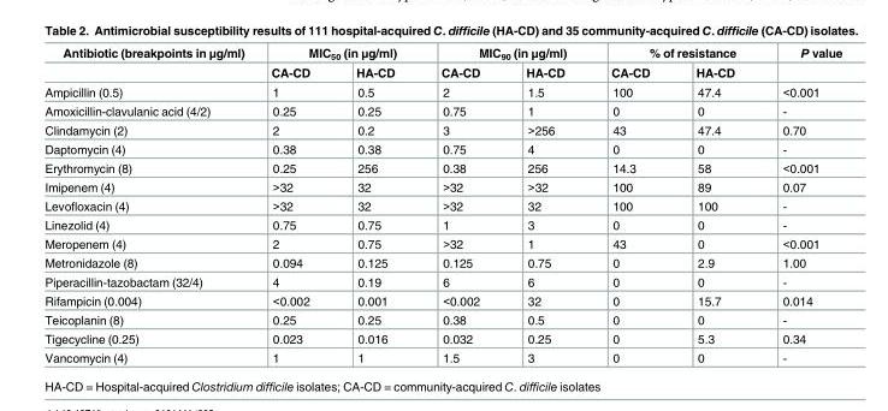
<table><thead><tr><td rowspan="2">Antibiotic (breakpoints in μg/ml)</td><td colspan="2">MIC<sub>50</sub> (in μg/ml)</td><td colspan="2">MIC<sub>90</sub> (in μg/ml)</td><td colspan="2">% of resistance</td><td rowspan="2">P value</td></tr><tr><td>CA-CD</td><td>HA-CD</td><td>CA-CD</td><td>HA-CD</td><td>CA-CD</td><td>HA-CD</td></tr></thead><tbody><tr><td>Ampicillin (0.5)</td><td>1</td><td>0.5</td><td>2</td><td>1.5</td><td>100</td><td>47.4</td><td>&lt;0.001</td></tr><tr><td>Amoxicillin-clavulanic acid (4/2)</td><td>0.25</td><td>0.25</td><td>0.75</td><td>1</td><td>0</td><td>0</td><td>-</td></tr><tr><td>Clindamycin (2)</td><td>2</td><td>0.2</td><td>3</td><td>&gt;256</td><td>43</td><td>47.4</td><td>0.70</td></tr><tr><td>Daptomycin (4)</td><td>0.38</td><td>0.38</td><td>0.75</td><td>4</td><td>0</td><td>0</td><td>-</td></tr><tr><td>Erythromycin (8)</td><td>0.25</td><td>256</td><td>0.38</td><td>256</td><td>14.3</td><td>58</td><td>&lt;0.001</td></tr><tr><td>Imipenem (4)</td><td>&gt;32</td><td>32</td><td>&gt;32</td><td>&gt;32</td><td>100</td><td>89</td><td>0.07</td></tr><tr><td>Levofloxacin (4)</td><td>&gt;32</td><td>32</td><td>&gt;32</td><td>32</td><td>100</td><td>100</td><td>-</td></tr><tr><td>Linezolid (4)</td><td>0.75</td><td>0.75</td><td>1</td><td>3</td><td>0</td><td>0</td><td>-</td></tr><tr><td>Meropenem (4)</td><td>2</td><td>0.75</td><td>&gt;32</td><td>1</td><td>43</td><td>0</td><td>&lt;0.001</td></tr><tr><td>Metronidazole (8)</td><td>0.094</td><td>0.125</td><td>0.125</td><td>0.75</td><td>0</td><td>2.9</td><td>1.00</td></tr><tr><td>Piperacillin-tazobactam (32/4)</td><td>4</td><td>0.19</td><td>6</td><td>6</td><td>0</td><td>0</td><td>-</td></tr><tr><td>Rifampicin (0.004)</td><td>&lt;0.002</td><td>0.001</td><td>&lt;0.002</td><td>32</td><td>0</td><td>15.7</td><td>0.014</td></tr><tr><td>Teicoplanin (8)</td><td>0.25</td><td>0.25</td><td>0.38</td><td>0.5</td><td>0</td><td>0</td><td>-</td></tr><tr><td>Tigecycline (0.25)</td><td>0.023</td><td>0.016</td><td>0.032</td><td>0.25</td><td>0</td><td>5.3</td><td>0.34</td></tr><tr><td>Vancomycin (4)</td><td>1</td><td>1</td><td>1.5</td><td>3</td><td>0</td><td>0</td><td>-</td></tr></tbody></table>